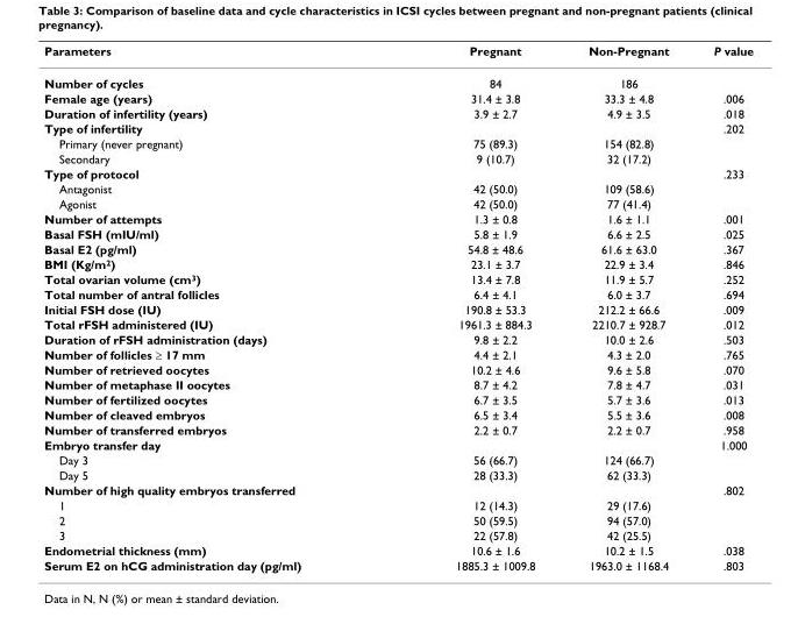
<table><thead><tr><td>Parameters</td><td>Pregnant</td><td>Non-Pregnant</td><td>P value</td></tr></thead><tbody><tr><td>Number of cycles</td><td>84</td><td>186</td><td></td></tr><tr><td>Female age (years)</td><td>31.4 ± 3.8</td><td>33.3 ± 4.8</td><td>.006</td></tr><tr><td>Duration of infertility (years)</td><td>3.9 ± 2.7</td><td>4.9 ± 3.5</td><td>.018</td></tr><tr><td>Type of infertility</td><td></td><td></td><td>.202</td></tr><tr><td>Primary (never pregnant)</td><td>75 (89.3)</td><td>154 (82.8)</td><td></td></tr><tr><td>Secondary</td><td>9 (10.7)</td><td>32 (17.2)</td><td></td></tr><tr><td>Type of protocol</td><td></td><td></td><td>.233</td></tr><tr><td>Antagonist</td><td>42 (50.0)</td><td>109 (58.6)</td><td></td></tr><tr><td>Agonist</td><td>42 (50.0)</td><td>77 (41.4)</td><td></td></tr><tr><td>Number of attempts</td><td>1.3 ± 0.8</td><td>1.6 ± 1.1</td><td>.001</td></tr><tr><td>Basal FSH (mIU/ml)</td><td>5.8 ± 1.9</td><td>6.6 ± 2.5</td><td>.025</td></tr><tr><td>Basal E2 (pg/ml)</td><td>54.8 ± 48.6</td><td>61.6 ± 63.0</td><td>.367</td></tr><tr><td>BMI (Kg/m<sup>2</sup>)</td><td>23.1 ± 3.7</td><td>22.9 ± 3.4</td><td>.846</td></tr><tr><td>Total ovarian volume (cm<sup>3</sup>)</td><td>13.4 ± 7.8</td><td>11.9 ± 5.7</td><td>.252</td></tr><tr><td>Total number of antral follicles</td><td>6.4 ± 4.1</td><td>6.0 ± 3.7</td><td>.694</td></tr><tr><td>Initial FSH dose (IU)</td><td>190.8 ± 53.3</td><td>212.2 ± 66.6</td><td>.009</td></tr><tr><td>Total rFSH administered (IU)</td><td>1961.3 ± 884.3</td><td>2210.7 ± 928.7</td><td>.012</td></tr><tr><td>Duration of rFSH administration (days)</td><td>9.8 ± 2.2</td><td>10.0 ± 2.6</td><td>.503</td></tr><tr><td>Number of follicles ≥ 17 mm</td><td>4.4 ± 2.1</td><td>4.3 ± 2.0</td><td>.765</td></tr><tr><td>Number of retrieved oocytes</td><td>10.2 ± 4.6</td><td>9.6 ± 5.8</td><td>.070</td></tr><tr><td>Number of metaphase II oocytes</td><td>8.7 ± 4.2</td><td>7.8 ± 4.7</td><td>.031</td></tr><tr><td>Number of fertilized oocytes</td><td>6.7 ± 3.5</td><td>5.7 ± 3.6</td><td>.013</td></tr><tr><td>Number of cleaved embryos</td><td>6.5 ± 3.4</td><td>5.5 ± 3.6</td><td>.008</td></tr><tr><td>Number of transferred embryos</td><td>2.2 ± 0.7</td><td>2.2 ± 0.7</td><td>.958</td></tr><tr><td>Embryo transfer day</td><td></td><td></td><td>1.000</td></tr><tr><td>Day 3</td><td>56 (66.7)</td><td>124 (66.7)</td><td></td></tr><tr><td>Day 5</td><td>28 (33.3)</td><td>62 (33.3)</td><td></td></tr><tr><td>Number of high quality embryos transferred</td><td></td><td></td><td>.802</td></tr><tr><td>1</td><td>12 (14.3)</td><td>29 (17.6)</td><td></td></tr><tr><td>2</td><td>50 (59.5)</td><td>94 (57.0)</td><td></td></tr><tr><td>3</td><td>22 (57.8)</td><td>42 (25.5)</td><td></td></tr><tr><td>Endometrial thickness (mm)</td><td>10.6 ± 1.6</td><td>10.2 ± 1.5</td><td>.038</td></tr><tr><td>Serum E2 on hCG administration day (pg/ml)</td><td>1885.3 ± 1009.8</td><td>1963.0 ± 1168.4</td><td>.803</td></tr></tbody></table>